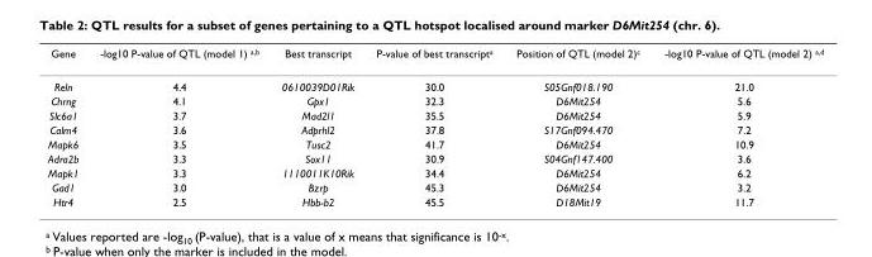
<table><thead><tr><td>Gene</td><td>-log10 P-value of QTL (model 1) a,b</td><td>Best transcript</td><td>P-value of best transcripta</td><td>Position of QTL (model 2)c</td><td>-log10 P-value of QTL (model 2) a,d</td></tr></thead><tbody><tr><td>Reln</td><td>4.4</td><td>0610039D01Rik</td><td>30.0</td><td>S05Gnf018.190</td><td>21.0</td></tr><tr><td>Chrng</td><td>4.1</td><td>Gpx1</td><td>32.3</td><td>D6Mit254</td><td>5.6</td></tr><tr><td>Slc6a1</td><td>3.7</td><td>Mad2l1</td><td>35.5</td><td>D6Mit254</td><td>5.9</td></tr><tr><td>Calm4</td><td>3.6</td><td>Adprhl2</td><td>37.8</td><td>S17Gnf094.470</td><td>7.2</td></tr><tr><td>Mapk6</td><td>3.5</td><td>Tusc2</td><td>41.7</td><td>D6Mit254</td><td>10.9</td></tr><tr><td>Adra2b</td><td>3.3</td><td>Sox11</td><td>30.9</td><td>S04Gnf147.400</td><td>3.6</td></tr><tr><td>Mapk1</td><td>3.3</td><td>1110011K10Rik</td><td>34.4</td><td>D6Mit254</td><td>6.2</td></tr><tr><td>Gad1</td><td>3.0</td><td>Bzrp</td><td>45.3</td><td>D6Mit254</td><td>3.2</td></tr><tr><td>Htr4</td><td>2.5</td><td>Hbb-b2</td><td>45.5</td><td>D18Mit19</td><td>11.7</td></tr></tbody></table>